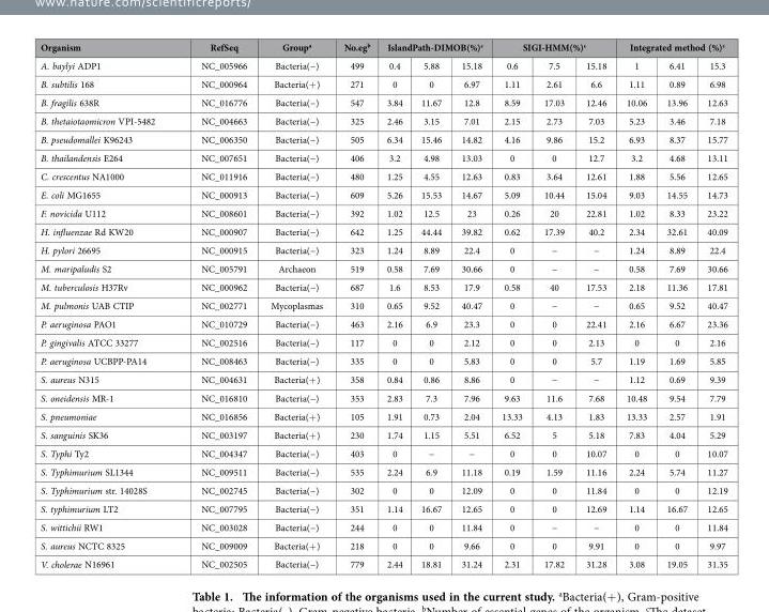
<table><thead><tr><td rowspan="2">Organism A. baylyi ADP1</td><td rowspan="2">RefSeq NC_005966</td><td rowspan="2">Group<sup>a</sup> Bacteria(−)</td><td rowspan="2">No.eg<sup>b</sup> 499</td><td colspan="3">IslandPath-DIMOB(%)<sup>c</sup></td><td colspan="3">SIGI-HMM(%)<sup>c</sup></td><td colspan="3">Integrated method (%)<sup>c</sup></td></tr><tr><td>0.4</td><td>5.88</td><td>15.18</td><td>0.6</td><td>7.5</td><td>15.18</td><td>1</td><td>6.41</td><td>15.3</td></tr></thead><tbody><tr><td>B. subtilis 168</td><td>NC_000964</td><td>Bacteria(+ )</td><td>271</td><td>0</td><td>0</td><td>6.97</td><td>1.11</td><td>2.61</td><td>6.6</td><td>1.11</td><td>0.89</td><td>6.98</td></tr><tr><td>B. fragilis 638R</td><td>NC_016776</td><td>Bacteria(−)</td><td>547</td><td>3.84</td><td>11.67</td><td>12.8</td><td>8.59</td><td>17.03</td><td>12.46</td><td>10.06</td><td>13.96</td><td>12.63</td></tr><tr><td>B. thetaiotaomicron VPI-5482</td><td>NC_004663</td><td>Bacteria(−)</td><td>325</td><td>2.46</td><td>3.15</td><td>7.01</td><td>2.15</td><td>2.73</td><td>7.03</td><td>5.23</td><td>3.46</td><td>7.18</td></tr><tr><td>B. pseudomallei K96243</td><td>NC_006350</td><td>Bacteria(−)</td><td>505</td><td>6.34</td><td>15.46</td><td>14.82</td><td>4.16</td><td>9.86</td><td>15.2</td><td>6.93</td><td>8.37</td><td>15.77</td></tr><tr><td>B. thailandensis E264</td><td>NC_007651</td><td>Bacteria(−)</td><td>406</td><td>3.2</td><td>4.98</td><td>13.03</td><td>0</td><td>0</td><td>12.7</td><td>3.2</td><td>4.68</td><td>13.11</td></tr><tr><td>C. crescentus NA1000</td><td>NC_011916</td><td>Bacteria(−)</td><td>480</td><td>1.25</td><td>4.55</td><td>12.63</td><td>0.83</td><td>3.64</td><td>12.61</td><td>1.88</td><td>5.56</td><td>12.65</td></tr><tr><td>E. coli MG1655</td><td>NC_000913</td><td>Bacteria(−)</td><td>609</td><td>5.26</td><td>15.53</td><td>14.67</td><td>5.09</td><td>10.44</td><td>15.04</td><td>9.03</td><td>14.55</td><td>14.73</td></tr><tr><td>F. novicida U112</td><td>NC_008601</td><td>Bacteria(−)</td><td>392</td><td>1.02</td><td>12.5</td><td>23</td><td>0.26</td><td>20</td><td>22.81</td><td>1.02</td><td>8.33</td><td>23.22</td></tr><tr><td>H. influenzae Rd KW20</td><td>NC_000907</td><td>Bacteria(−)</td><td>642</td><td>1.25</td><td>44.44</td><td>39.82</td><td>0.62</td><td>17.39</td><td>40.2</td><td>2.34</td><td>32.61</td><td>40.09</td></tr><tr><td>H. pylori 26695</td><td>NC_000915</td><td>Bacteria(−)</td><td>323</td><td>1.24</td><td>8.89</td><td>22.4</td><td>0</td><td>−</td><td>−</td><td>1.24</td><td>8.89</td><td>22.4</td></tr><tr><td>M. maripaludis S2</td><td>NC_005791</td><td>Archaeon</td><td>519</td><td>0.58</td><td>7.69</td><td>30.66</td><td>0</td><td>−</td><td>−</td><td>0.58</td><td>7.69</td><td>30.66</td></tr><tr><td>M. tuberculosis H37Rv</td><td>NC_000962</td><td>Bacteria(−)</td><td>687</td><td>1.6</td><td>8.53</td><td>17.9</td><td>0.58</td><td>40</td><td>17.53</td><td>2.18</td><td>11.36</td><td>17.81</td></tr><tr><td>M. pulmonis UAB CTIP</td><td>NC_002771</td><td>Mycoplasmas</td><td>310</td><td>0.65</td><td>9.52</td><td>40.47</td><td>0</td><td>−</td><td>−</td><td>0.65</td><td>9.52</td><td>40.47</td></tr><tr><td>P. aeruginosa PAO1</td><td>NC_010729</td><td>Bacteria(−)</td><td>463</td><td>2.16</td><td>6.9</td><td>23.3</td><td>0</td><td>0</td><td>22.41</td><td>2.16</td><td>6.67</td><td>23.36</td></tr><tr><td>P. gingivalis ATCC 33277</td><td>NC_002516</td><td>Bacteria(−)</td><td>117</td><td>0</td><td>0</td><td>2.12</td><td>0</td><td>0</td><td>2.13</td><td>0</td><td>0</td><td>2.16</td></tr><tr><td>P. aeruginosa UCBPP-PA14</td><td>NC_008463</td><td>Bacteria(−)</td><td>335</td><td>0</td><td>0</td><td>5.83</td><td>0</td><td>0</td><td>5.7</td><td>1.19</td><td>1.69</td><td>5.85</td></tr><tr><td>S. aureus N315</td><td>NC_004631</td><td>Bacteria(+ )</td><td>358</td><td>0.84</td><td>0.86</td><td>8.86</td><td>0</td><td>−</td><td>−</td><td>1.12</td><td>0.69</td><td>9.39</td></tr><tr><td>S. oneidensis MR-1</td><td>NC_016810</td><td>Bacteria(−)</td><td>353</td><td>2.83</td><td>7.3</td><td>7.96</td><td>9.63</td><td>11.6</td><td>7.68</td><td>10.48</td><td>9.54</td><td>7.79</td></tr><tr><td>S. pneumoniae</td><td>NC_016856</td><td>Bacteria(+ )</td><td>105</td><td>1.91</td><td>0.73</td><td>2.04</td><td>13.33</td><td>4.13</td><td>1.83</td><td>13.33</td><td>2.57</td><td>1.91</td></tr><tr><td>S. sanguinis SK36</td><td>NC_003197</td><td>Bacteria(+ )</td><td>230</td><td>1.74</td><td>1.15</td><td>5.51</td><td>6.52</td><td>5</td><td>5.18</td><td>7.83</td><td>4.04</td><td>5.29</td></tr><tr><td>S. Typhi Ty2</td><td>NC_004347</td><td>Bacteria(−)</td><td>403</td><td>0</td><td>−</td><td>−</td><td>0</td><td>0</td><td>10.07</td><td>0</td><td>0</td><td>10.07</td></tr><tr><td>S. Typhimurium SL1344</td><td>NC_009511</td><td>Bacteria(−)</td><td>535</td><td>2.24</td><td>6.9</td><td>11.18</td><td>0.19</td><td>1.59</td><td>11.16</td><td>2.24</td><td>5.74</td><td>11.27</td></tr><tr><td>S. Typhimurium str. 14028S</td><td>NC_002745</td><td>Bacteria(−)</td><td>302</td><td>0</td><td>0</td><td>12.09</td><td>0</td><td>0</td><td>11.84</td><td>0</td><td>0</td><td>12.19</td></tr><tr><td>S. typhimurium LT2</td><td>NC_007795</td><td>Bacteria(−)</td><td>351</td><td>1.14</td><td>16.67</td><td>12.65</td><td>0</td><td>0</td><td>12.69</td><td>1.14</td><td>16.67</td><td>12.65</td></tr><tr><td>S. wittichii RW1</td><td>NC_003028</td><td>Bacteria(−)</td><td>244</td><td>0</td><td>0</td><td>11.84</td><td>0</td><td>−</td><td>−</td><td>0</td><td>0</td><td>11.84</td></tr><tr><td>S. aureus NCTC 8325</td><td>NC_009009</td><td>Bacteria(+ )</td><td>218</td><td>0</td><td>0</td><td>9.66</td><td>0</td><td>0</td><td>9.91</td><td>0</td><td>0</td><td>9.97</td></tr><tr><td>V. cholerae N16961</td><td>NC_002505</td><td>Bacteria(−)</td><td>779</td><td>2.44</td><td>18.81</td><td>31.24</td><td>2.31</td><td>17.82</td><td>31.28</td><td>3.08</td><td>19.05</td><td>31.35</td></tr></tbody></table>